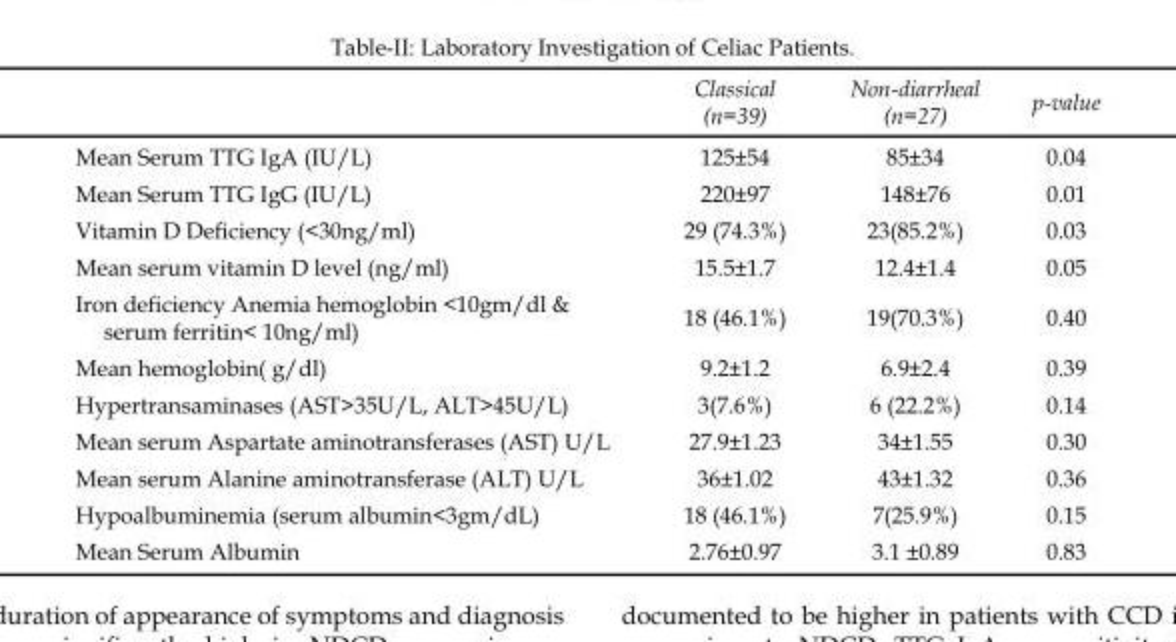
<table><thead><tr><td></td><td>Classical (n=39)</td><td>Non-diarrheal (n=27)</td><td>p-value</td></tr></thead><tbody><tr><td>Mean Serum TTG IgA (IU/L)</td><td>125±54</td><td>85±34</td><td>0.04</td></tr><tr><td>Mean Serum TTG IgG (IU/L)</td><td>220±97</td><td>148±76</td><td>0.01</td></tr><tr><td>Vitamin D Deficiency (&lt;30ng/ml)</td><td>29 (74.3%)</td><td>23(85.2%)</td><td>0.03</td></tr><tr><td>Mean serum vitamin D level (ng/ml)</td><td>15.5±1.7</td><td>12.4±1.4</td><td>0.05</td></tr><tr><td>Iron deficiency Anemia hemoglobin &lt;10gm/dl &amp; serum ferritin&lt; 10ng/ml)</td><td>18 (46.1%)</td><td>19(70.3%)</td><td>0.40</td></tr><tr><td>Mean hemoglobin( g/dl)</td><td>9.2±1.2</td><td>6.9±2.4</td><td>0.39</td></tr><tr><td>Hypertransaminases (AST&gt;35U/L, ALT&gt;45U/L)</td><td>3(7.6%)</td><td>6 (22.2%)</td><td>0.14</td></tr><tr><td>Mean serum Aspartate aminotransferases (AST) U/L</td><td>27.9±1.23</td><td>34±1.55</td><td>0.30</td></tr><tr><td>Mean serum Alanine aminotransferase (ALT) U/L</td><td>36±1.02</td><td>43±1.32</td><td>0.36</td></tr><tr><td>Hypoalbuminemia (serum albumin&lt;3gm/dL)</td><td>18 (46.1%)</td><td>7(25.9%)</td><td>0.15</td></tr><tr><td>Mean Serum Albumin</td><td>2.76±0.97</td><td>3.1 ±0.89</td><td>0.83</td></tr></tbody></table>